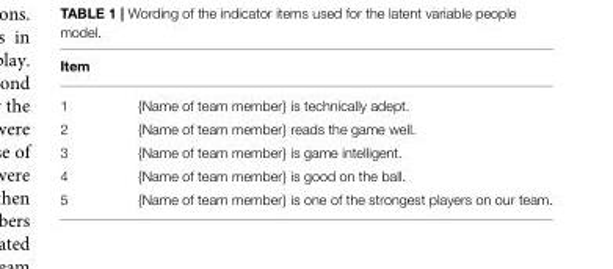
<table><thead><tr><td>Item</td><td></td></tr></thead><tbody><tr><td>1</td><td>{Name of team member} is technically adept.</td></tr><tr><td>2</td><td>{Name of team member} reads the game well.</td></tr><tr><td>3</td><td>{Name of team member} is game intelligent.</td></tr><tr><td>4</td><td>{Name of team member} is good on the ball.</td></tr><tr><td>5</td><td>{Name of team member} is one of the strongest players on our team.</td></tr></tbody></table>